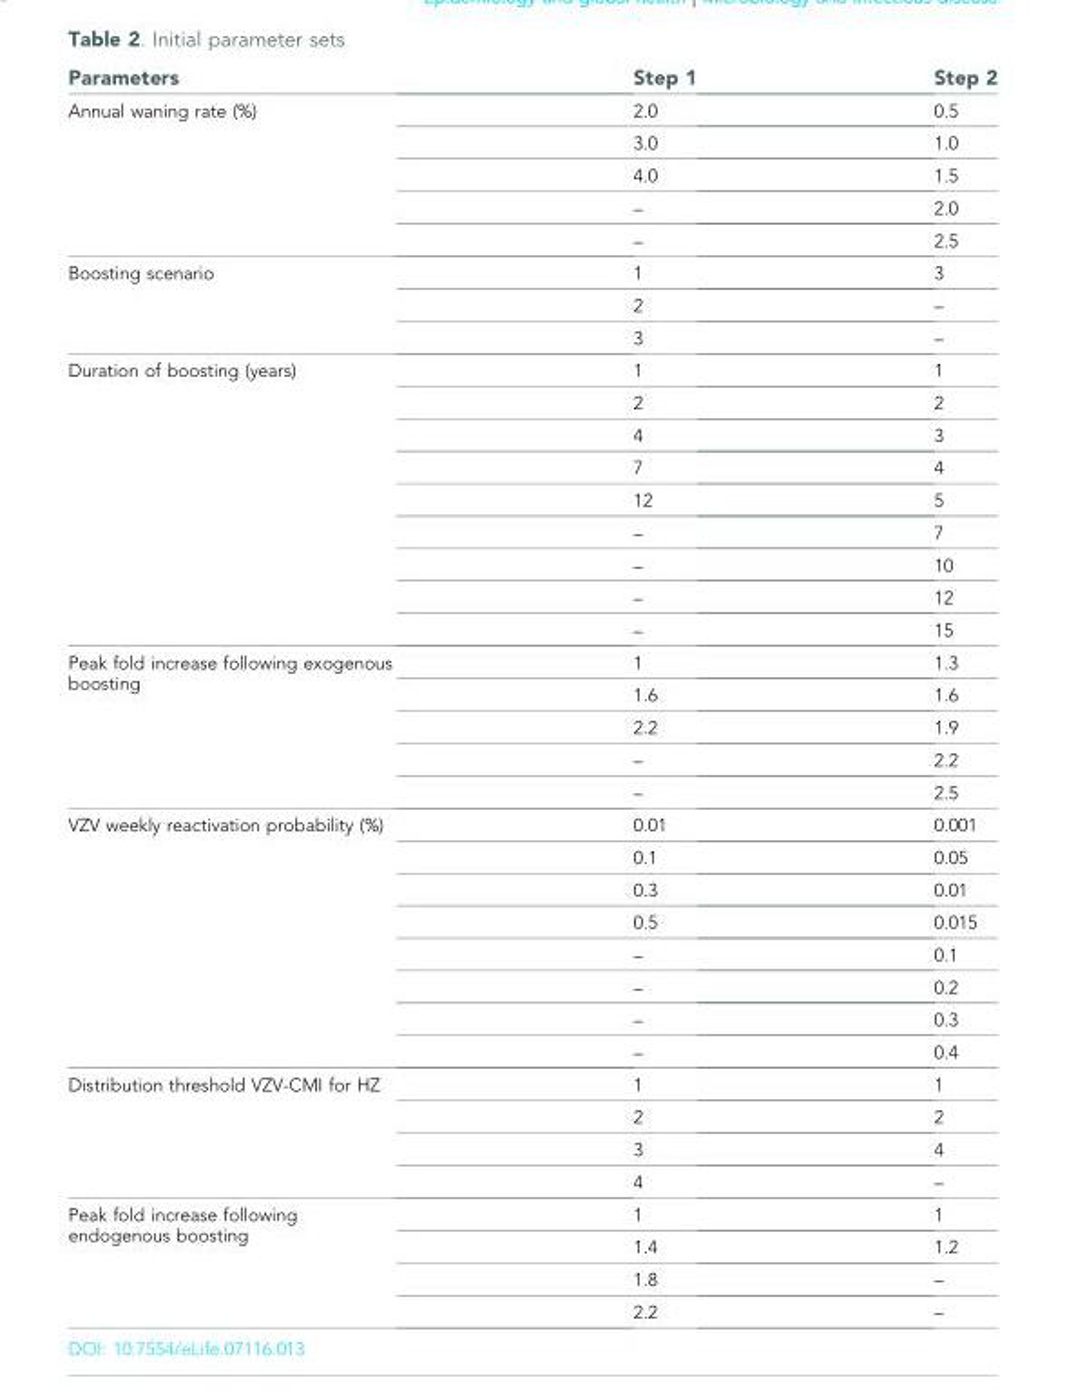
<table><thead><tr><td>Parameters</td><td>Step 1</td><td>Step 2</td></tr></thead><tbody><tr><td rowspan="5">Annual waning rate (%)</td><td>2.0</td><td>0.5</td></tr><tr><td>3.0</td><td>1.0</td></tr><tr><td>4.0</td><td>1.5</td></tr><tr><td>–</td><td>2.0</td></tr><tr><td>–</td><td>2.5</td></tr><tr><td rowspan="3">Boosting scenario</td><td>1</td><td>3</td></tr><tr><td>2</td><td>–</td></tr><tr><td>3</td><td>–</td></tr><tr><td rowspan="9">Duration of boosting (years)</td><td>1</td><td>1</td></tr><tr><td>2</td><td>2</td></tr><tr><td>4</td><td>3</td></tr><tr><td>7</td><td>4</td></tr><tr><td>12</td><td>5</td></tr><tr><td>–</td><td>7</td></tr><tr><td>–</td><td>10</td></tr><tr><td>–</td><td>12</td></tr><tr><td>–</td><td>15</td></tr><tr><td rowspan="5">Peak fold increase following exogenous boosting</td><td>1</td><td>1.3</td></tr><tr><td>1.6</td><td>1.6</td></tr><tr><td>2.2</td><td>1.9</td></tr><tr><td>–</td><td>2.2</td></tr><tr><td>–</td><td>2.5</td></tr><tr><td rowspan="8">VZV weekly reactivation probability (%)</td><td>0.01</td><td>0.001</td></tr><tr><td>0.1</td><td>0.05</td></tr><tr><td>0.3</td><td>0.01</td></tr><tr><td>0.5</td><td>0.015</td></tr><tr><td>–</td><td>0.1</td></tr><tr><td>–</td><td>0.2</td></tr><tr><td>–</td><td>0.3</td></tr><tr><td>–</td><td>0.4</td></tr><tr><td rowspan="4">Distribution threshold VZV-CMI for HZ</td><td>1</td><td>1</td></tr><tr><td>2</td><td>2</td></tr><tr><td>3</td><td>4</td></tr><tr><td>4</td><td>–</td></tr><tr><td rowspan="4">Peak fold increase following endogenous boosting</td><td>1</td><td>1</td></tr><tr><td>1.4</td><td>1.2</td></tr><tr><td>1.8</td><td>–</td></tr><tr><td>2.2</td><td>–</td></tr></tbody></table>